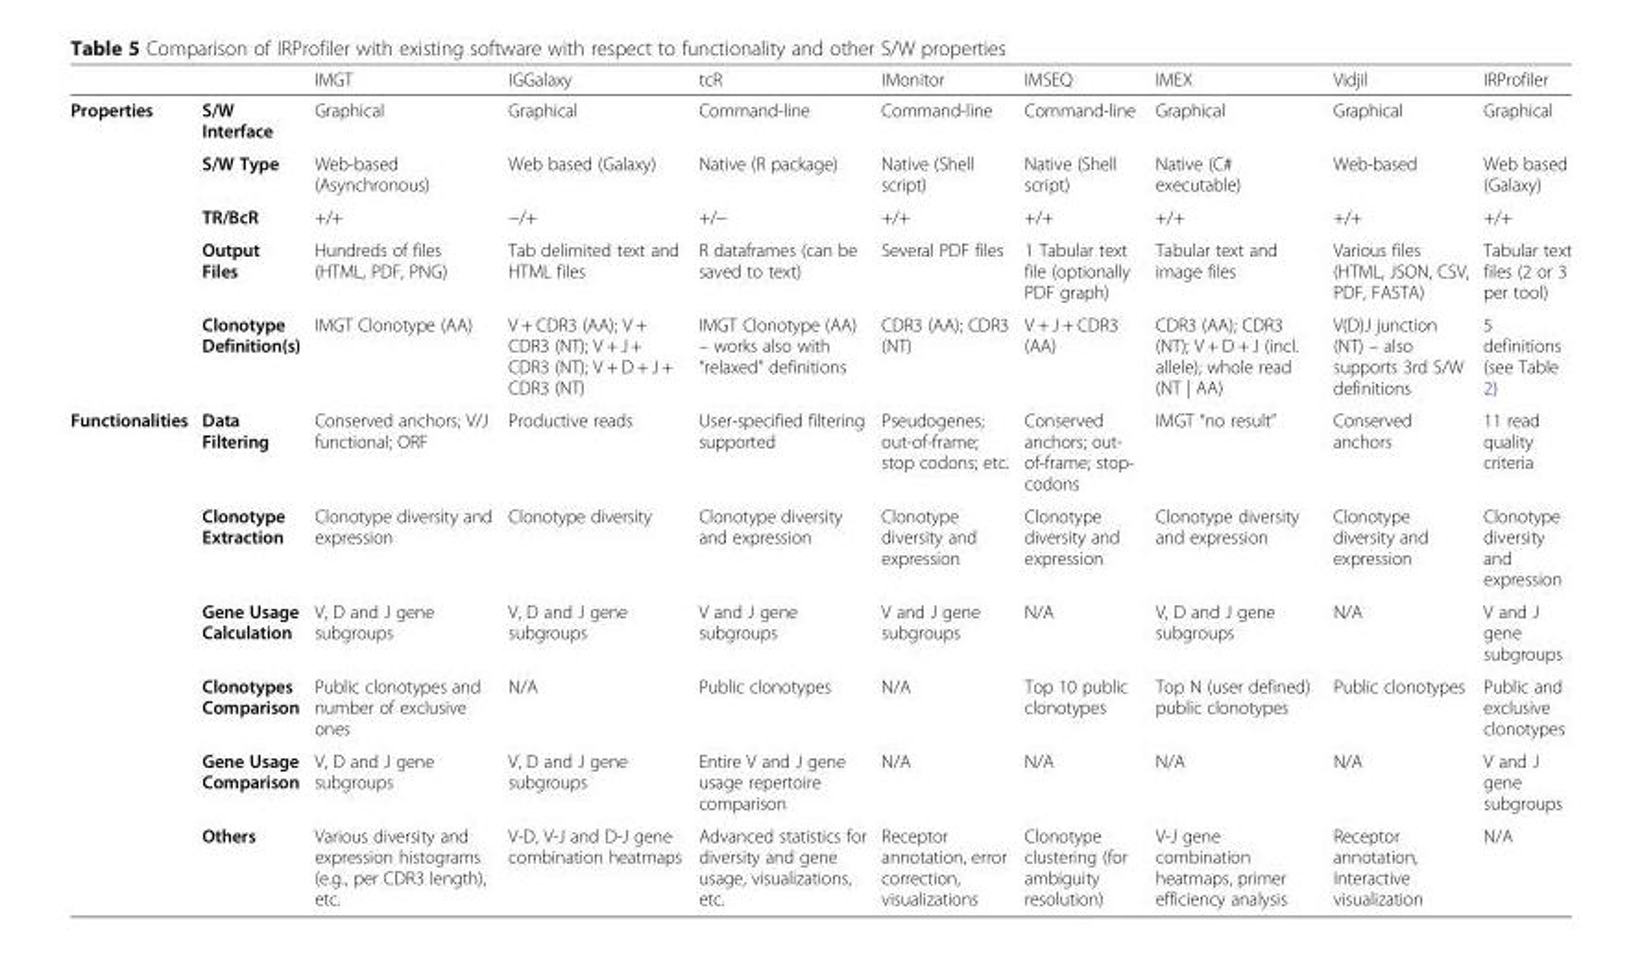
<table><thead><tr><td></td><td></td><td>IMGT</td><td>IGGalaxy</td><td>tcR</td><td>IMonitor</td><td>IMSEQ</td><td>IMEX</td><td>Vidjil</td><td>IRProfiler</td></tr></thead><tbody><tr><td rowspan="5">Properties</td><td>S/W Interface</td><td>Graphical</td><td>Graphical</td><td>Command-line</td><td>Command-line</td><td>Command-line</td><td>Graphical</td><td>Graphical</td><td>Graphical</td></tr><tr><td>S/W Type</td><td>Web-based (Asynchronous)</td><td>Web based (Galaxy)</td><td>Native (R package)</td><td>Native (Shell script)</td><td>Native (Shell script)</td><td>Native (C# executable)</td><td>Web-based</td><td>Web based (Galaxy)</td></tr><tr><td>TR/BcR</td><td>+/+</td><td>−/+</td><td>+/−</td><td>+/+</td><td>+/+</td><td>+/+</td><td>+/+</td><td>+/+</td></tr><tr><td>Output Files</td><td>Hundreds of files (HTML, PDF, PNG)</td><td>Tab delimited text and HTML files</td><td>R dataframes (can be saved to text)</td><td>Several PDF files</td><td>1 Tabular text file (optionally PDF graph)</td><td>Tabular text and image files</td><td>Various files (HTML, JSON, CSV, PDF, FASTA)</td><td>Tabular text files (2 or 3 per tool)</td></tr><tr><td>Clonotype Definition(s)</td><td>IMGT Clonotype (AA)</td><td>V + CDR3 (AA); V + CDR3 (NT); V + J + CDR3 (NT); V + D + J + CDR3 (NT)</td><td>IMGT Clonotype (AA) – works also with “relaxed” definitions</td><td>CDR3 (AA); CDR3 (NT)</td><td>V + J + CDR3 (AA)</td><td>CDR3 (AA); CDR3 (NT); V + D + J (incl. allele); whole read (NT | AA)</td><td>V(D)J junction (NT) – also supports 3rd S/W definitions</td><td>5 definitions (see Table 2)</td></tr><tr><td rowspan="6">Functionalities</td><td>Data Filtering</td><td>Conserved anchors; V/J functional; ORF</td><td>Productive reads</td><td>User-specified filtering supported</td><td>Pseudogenes; out-of-frame; stop codons; etc.</td><td>Conserved anchors; out- of-frame; stop- codons</td><td>IMGT “no result”</td><td>Conserved anchors</td><td>11 read quality criteria</td></tr><tr><td>Clonotype Extraction</td><td>Clonotype diversity and expression</td><td>Clonotype diversity</td><td>Clonotype diversity and expression</td><td>Clonotype diversity and expression</td><td>Clonotype diversity and expression</td><td>Clonotype diversity and expression</td><td>Clonotype diversity and expression</td><td>Clonotype diversity and expression</td></tr><tr><td>Gene Usage Calculation</td><td>V, D and J gene subgroups</td><td>V, D and J gene subgroups</td><td>V and J gene subgroups</td><td>V and J gene subgroups</td><td>N/A</td><td>V, D and J gene subgroups</td><td>N/A</td><td>V and J gene subgroups</td></tr><tr><td>Clonotypes Comparison</td><td>Public clonotypes and number of exclusive ones</td><td>N/A</td><td>Public clonotypes</td><td>N/A</td><td>Top 10 public clonotypes</td><td>Top N (user defined) public clonotypes</td><td>Public clonotypes</td><td>Public and exclusive clonotypes</td></tr><tr><td>Gene Usage Comparison</td><td>V, D and J gene subgroups</td><td>V, D and J gene subgroups</td><td>Entire V and J gene usage repertoire comparison</td><td>N/A</td><td>N/A</td><td>N/A</td><td>N/A</td><td>V and J gene subgroups</td></tr><tr><td>Others</td><td>Various diversity and expression histograms (e.g., per CDR3 length), etc.</td><td>V-D, V-J and D-J gene combination heatmaps</td><td>Advanced statistics for diversity and gene usage, visualizations, etc.</td><td>Receptor annotation, error correction, visualizations</td><td>Clonotype clustering (for ambiguity resolution)</td><td>V-J gene combination heatmaps, primer efficiency analysis</td><td>Receptor annotation, Interactive visualization</td><td>N/A</td></tr></tbody></table>